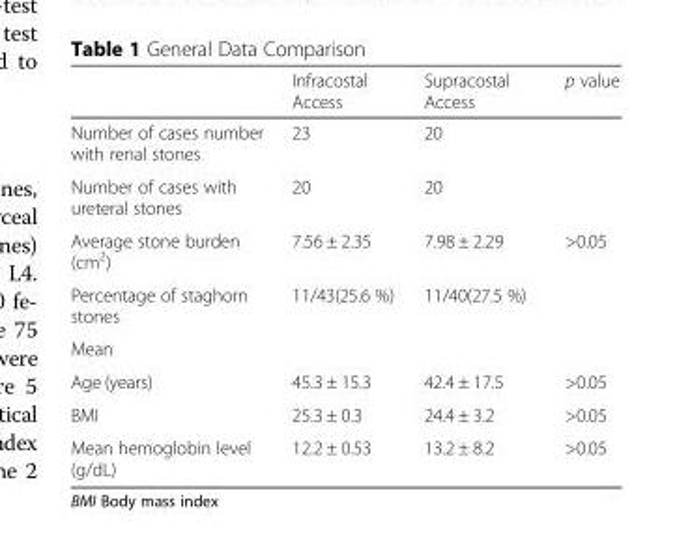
<table><thead><tr><td></td><td>Infracostal Access</td><td>Supracostal Access</td><td>p value</td></tr></thead><tbody><tr><td>Number of cases number with renal stones</td><td>23</td><td>20</td><td></td></tr><tr><td>Number of cases with ureteral stones</td><td>20</td><td>20</td><td></td></tr><tr><td>Average stone burden (cm<sup>2</sup>)</td><td>7.56 ± 2.35</td><td>7.98 ± 2.29</td><td>&gt;0.05</td></tr><tr><td>Percentage of staghorn stones</td><td>11/43(25.6 %)</td><td>11/40(27.5 %)</td><td></td></tr><tr><td colspan="4">Mean</td></tr><tr><td>Age (years)</td><td>45.3 ± 15.3</td><td>42.4 ± 17.5</td><td>&gt;0.05</td></tr><tr><td>BMI</td><td>25.3 ± 0.3</td><td>24.4 ± 3.2</td><td>&gt;0.05</td></tr><tr><td>Mean hemoglobin level (g/dL)</td><td>12.2 ± 0.53</td><td>13.2 ± 8.2</td><td>&gt;0.05</td></tr></tbody></table>